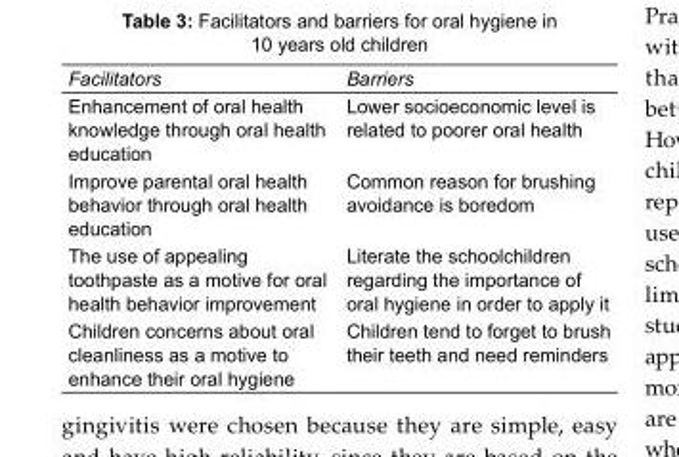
<table><tbody><tr><td>Facilitators</td><td>Barriers</td></tr><tr><td>Enhancement of oral health knowledge through oral health education</td><td>Lower socioeconomic level is related to poorer oral health</td></tr><tr><td>Improve parental oral health behavior through oral health education</td><td>Common reason for brushing avoidance is boredom</td></tr><tr><td>The use of appealing toothpaste as a motive for oral health behavior improvement</td><td>Literate the schoolchildren regarding the importance of oral hygiene in order to apply it</td></tr><tr><td>Children concerns about oral cleanliness as a motive to enhance their oral hygiene</td><td>Children tend to forget to brush their teeth and need reminders</td></tr></tbody></table>